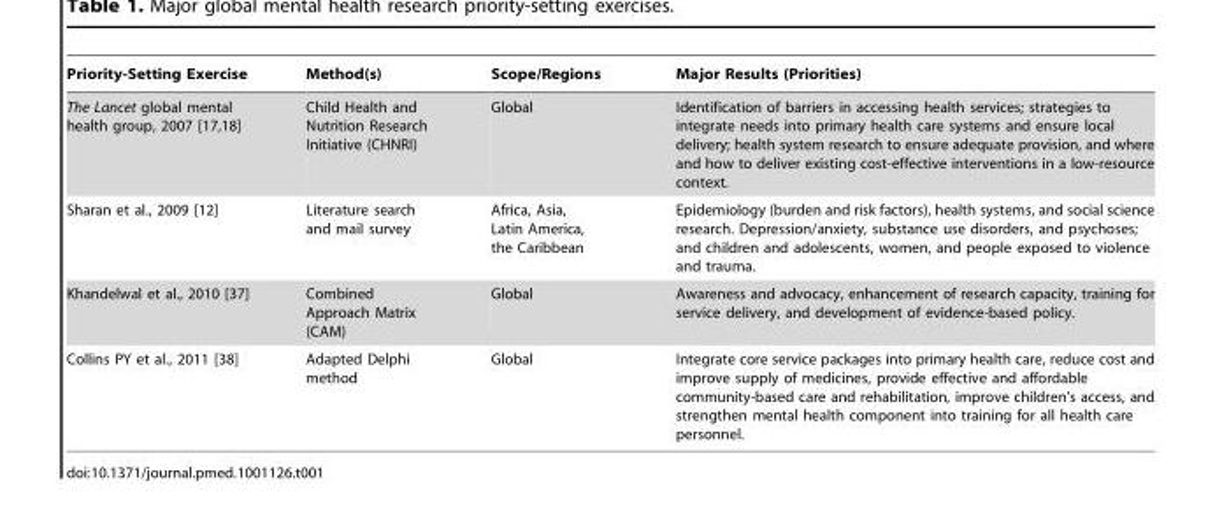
<table><thead><tr><td>Priority-Setting Exercise</td><td>Method(s)</td><td>Scope/Regions</td><td>Major Results (Priorities)</td></tr></thead><tbody><tr><td>The Lancet global mental health group, 2007 [17,18]</td><td>Child Health and Nutrition Research Initiative (CHNRI)</td><td>Global</td><td>Identification of barriers in accessing health services; strategies to integrate needs into primary health care systems and ensure local delivery; health system research to ensure adequate provision, and where and how to deliver existing cost-effective interventions in a low-resource context.</td></tr><tr><td>Sharan et al., 2009 [12]</td><td>Literature search and mail survey</td><td>Africa, Asia, Latin America, the Caribbean</td><td>Epidemiology (burden and risk factors), health systems, and social science research. Depression/anxiety, substance use disorders, and psychoses; and children and adolescents, women, and people exposed to violence and trauma.</td></tr><tr><td>Khandelwal et al., 2010 [37]</td><td>Combined Approach Matrix (CAM)</td><td>Global</td><td>Awareness and advocacy, enhancement of research capacity, training for service delivery, and development of evidence-based policy.</td></tr><tr><td>Collins PY et al., 2011 [38]</td><td>Adapted Delphi method</td><td>Global</td><td>Integrate core service packages into primary health care, reduce cost and improve supply of medicines, provide effective and affordable community-based care and rehabilitation, improve children’s access, and strengthen mental health component into training for all health care personnel.</td></tr></tbody></table>